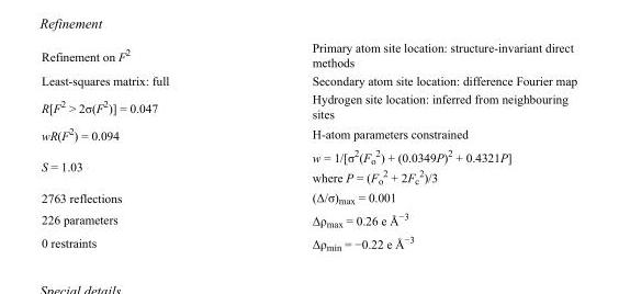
<table><tbody><tr><td>Refinement on F<sup>2</sup></td><td>Primary atom site location: structure-invariant direct methods</td></tr><tr><td>Least-squares matrix: full</td><td>Secondary atom site location: difference Fourier map</td></tr><tr><td>R[F<sup>2</sup> &gt; 2σ(F<sup>2</sup>)] = 0.047</td><td>Hydrogen site location: inferred from neighbouring sites</td></tr><tr><td>wR(F<sup>2</sup>) = 0.094</td><td>H-atom parameters constrained</td></tr><tr><td>S = 1.03</td><td>w = 1/[σ<sup>2</sup>(F<sub>o</sub> <sup>2</sup>) + (0.0349P)<sup>2</sup> + 0.4321P] where P = (F<sub>o</sub> <sup>2</sup> + 2F<sub>c</sub> <sup>2</sup>)/3</td></tr><tr><td>2763 reflections</td><td>(Δ/σ)<sub>max</sub> = 0.001</td></tr><tr><td>226 parameters</td><td>Δρ<sub>max</sub> = 0.26 e Å<sup>−3</sup></td></tr><tr><td>0 restraints</td><td>Δρ<sub>min</sub> = −0.22 e Å<sup>−3</sup></td></tr></tbody></table>